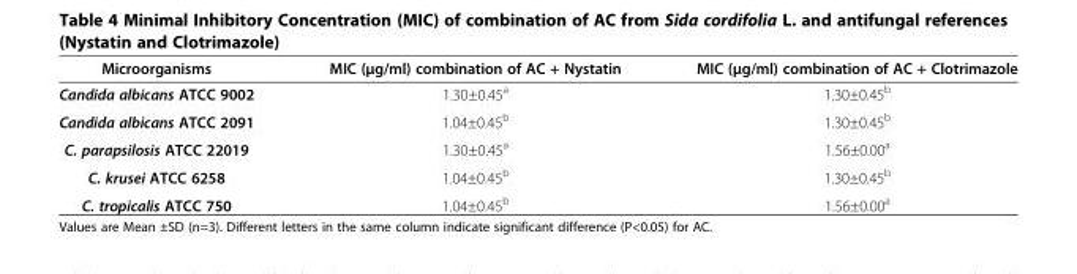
<table><thead><tr><td>Microorganisms</td><td>MIC (μg/ml) combination of AC + Nystatin</td><td>MIC (μg/ml) combination of AC + Clotrimazole</td></tr></thead><tbody><tr><td>Candida albicans ATCC 9002</td><td>1.30±0.45<sup>a</sup></td><td>1.30±0.45<sup>b</sup></td></tr><tr><td>Candida albicans ATCC 2091</td><td>1.04±0.45<sup>b</sup></td><td>1.30±0.45<sup>b</sup></td></tr><tr><td>C. parapsilosis ATCC 22019</td><td>1.30±0.45<sup>a</sup></td><td>1.56±0.00<sup>a</sup></td></tr><tr><td>C. krusei ATCC 6258</td><td>1.04±0.45<sup>b</sup></td><td>1.30±0.45<sup>b</sup></td></tr><tr><td>C. tropicalis ATCC 750</td><td>1.04±0.45<sup>b</sup></td><td>1.56±0.00<sup>a</sup></td></tr></tbody></table>